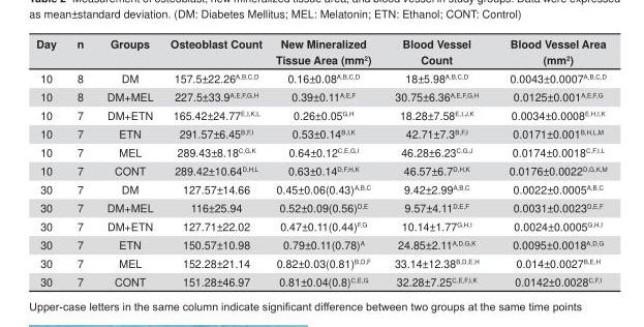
<table><thead><tr><td>Day</td><td>n</td><td>Groups</td><td>Osteoblast Count</td><td>New Mineralized Tissue Area (mm<sup>2</sup>)</td><td>Blood Vessel Count</td><td>Blood Vessel Area (mm<sup>2</sup>)</td></tr></thead><tbody><tr><td>10</td><td>8</td><td>DM</td><td>157.5±22.26<sup>A,B,C,D</sup></td><td>0.16±0.08<sup>A,B,C,D</sup></td><td>18±5.98<sup>A,B,C,D</sup></td><td>0.0043±0.0007<sup>A,B,C,D</sup></td></tr><tr><td>10</td><td>8</td><td>DM+MEL</td><td>227.5±33.9<sup>A,E,F,G,H</sup></td><td>0.39±0.11<sup>A,E,F</sup></td><td>30.75±6.36<sup>A,E,F,G,H</sup></td><td>0.0125±0.001<sup>A,E,F,G</sup></td></tr><tr><td>10</td><td>7</td><td>DM+ETN</td><td>165.42±24.77<sup>E,I,K,L</sup></td><td>0.26±0.05<sup>G,H</sup></td><td>18.28±7.58<sup>E,I,J,K</sup></td><td>0.0034±0.0008<sup>E,H,I,K</sup></td></tr><tr><td>10</td><td>7</td><td>ETN</td><td>291.57±6.45<sup>B,F,I</sup></td><td>0.53±0.14<sup>B,I,K</sup></td><td>42.71±7.3<sup>B,F,I</sup></td><td>0.0171±0.001<sup>B,H,L,M</sup></td></tr><tr><td>10</td><td>7</td><td>MEL</td><td>289.43±8.18<sup>C,G,K</sup></td><td>0.64±0.12<sup>C,E,G,I</sup></td><td>46.28±6.23<sup>C,G,J</sup></td><td>0.0174±0.0018<sup>C,F,I,L</sup></td></tr><tr><td>10</td><td>7</td><td>CONT</td><td>289.42±10.64<sup>D,H,L</sup></td><td>0.63±0.14<sup>D,F,H,K</sup></td><td>46.57±6.7<sup>D,H,K</sup></td><td>0.0176±0.0022<sup>D,G,K,M</sup></td></tr><tr><td>30</td><td>7</td><td>DM</td><td>127.57±14.66</td><td>0.45±0.06(0.43)<sup>A,B,C</sup></td><td>9.42±2.99<sup>A,B,C</sup></td><td>0.0022±0.0005<sup>A,B,C</sup></td></tr><tr><td>30</td><td>7</td><td>DM+MEL</td><td>116±25.94</td><td>0.52±0.09(0.56)<sup>D,E</sup></td><td>9.57±4.11<sup>D,E,F</sup></td><td>0.0031±0.0023<sup>D,E,F</sup></td></tr><tr><td>30</td><td>7</td><td>DM+ETN</td><td>127.71±22.02</td><td>0.47±0.11(0.44)<sup>F,G</sup></td><td>10.14±1.77<sup>G,H,I</sup></td><td>0.0024±0.0005<sup>G,H,I</sup></td></tr><tr><td>30</td><td>7</td><td>ETN</td><td>150.57±10.98</td><td>0.79±0.11(0.78)<sup>A</sup></td><td>24.85±2.11<sup>A,D,G,K</sup></td><td>0.0095±0.0018<sup>A,D,G</sup></td></tr><tr><td>30</td><td>7</td><td>MEL</td><td>152.28±21.14</td><td>0.82±0.03(0.81)<sup>B,D,F</sup></td><td>33.14±12.38<sup>B,D,E,H</sup></td><td>0.014±0.0027<sup>B,E,H</sup></td></tr><tr><td>30</td><td>7</td><td>CONT</td><td>151.28±46.97</td><td>0.81±0.04(0.8)<sup>C,E,G</sup></td><td>32.28±7.25<sup>C,E,F,I,K</sup></td><td>0.0142±0.0028<sup>C,F,I</sup></td></tr></tbody></table>